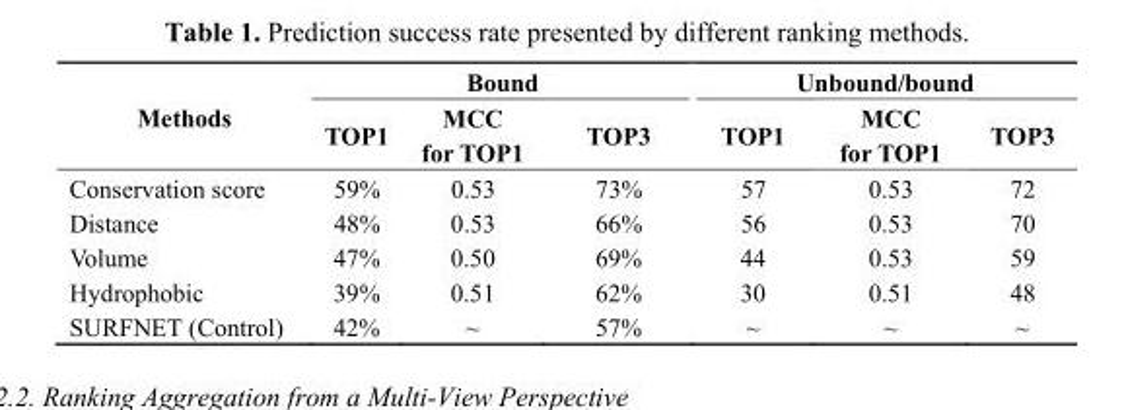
<table><thead><tr><td rowspan="2">Methods</td><td colspan="3">Bound</td><td colspan="3">Unbound/bound</td></tr><tr><td>TOP1</td><td>MCC for TOP1</td><td>TOP3</td><td>TOP1</td><td>MCC for TOP1</td><td>TOP3</td></tr></thead><tbody><tr><td>Conservation score</td><td>59%</td><td>0.53</td><td>73%</td><td>57</td><td>0.53</td><td>72</td></tr><tr><td>Distance</td><td>48%</td><td>0.53</td><td>66%</td><td>56</td><td>0.53</td><td>70</td></tr><tr><td>Volume</td><td>47%</td><td>0.50</td><td>69%</td><td>44</td><td>0.53</td><td>59</td></tr><tr><td>Hydrophobic</td><td>39%</td><td>0.51</td><td>62%</td><td>30</td><td>0.51</td><td>48</td></tr><tr><td>SURFNET (Control)</td><td>42%</td><td>~</td><td>57%</td><td>~</td><td>~</td><td>~</td></tr></tbody></table>